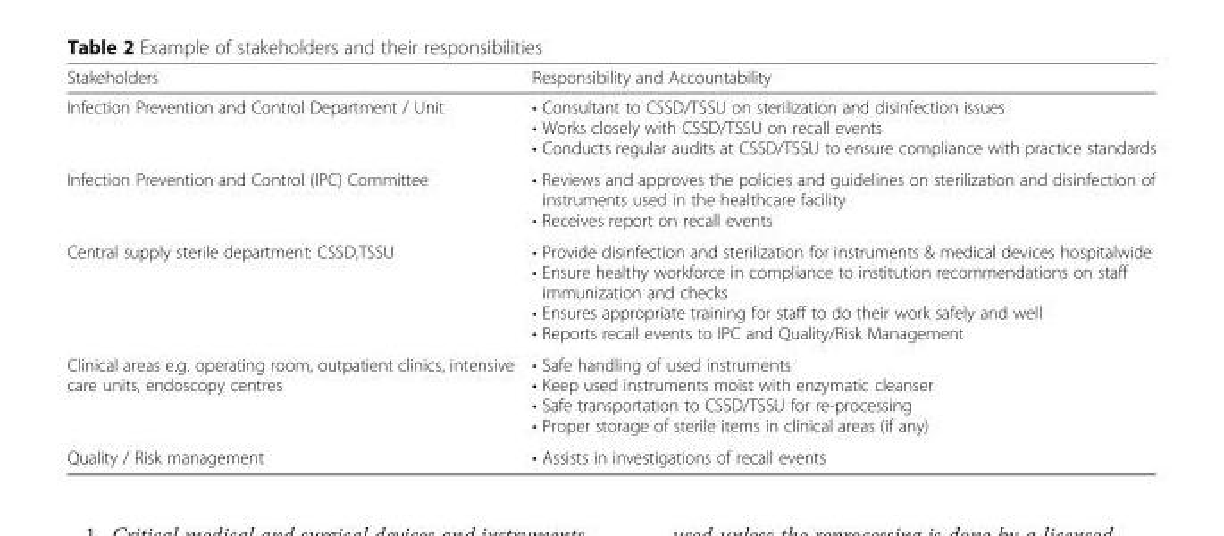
<table><thead><tr><td>Stakeholders</td><td>Responsibility and Accountability</td></tr></thead><tbody><tr><td>Infection Prevention and Control Department / Unit</td><td>• Consultant to CSSD/TSSU on sterilization and disinfection issues • Works closely with CSSD/TSSU on recall events • Conducts regular audits at CSSD/TSSU to ensure compliance with practice standards</td></tr><tr><td>Infection Prevention and Control (IPC) Committee</td><td>• Reviews and approves the policies and guidelines on sterilization and disinfection of instruments used in the healthcare facility • Receives report on recall events</td></tr><tr><td>Central supply sterile department: CSSD,TSSU</td><td>• Provide disinfection and sterilization for instruments &amp; medical devices hospitalwide • Ensure healthy workforce in compliance to institution recommendations on staff immunization and checks • Ensures appropriate training for staff to do their work safely and well • Reports recall events to IPC and Quality/Risk Management</td></tr><tr><td>Clinical areas e.g. operating room, outpatient clinics, intensive care units, endoscopy centres</td><td>• Safe handling of used instruments • Keep used instruments moist with enzymatic cleanser • Safe transportation to CSSD/TSSU for re-processing • Proper storage of sterile items in clinical areas (if any)</td></tr><tr><td>Quality / Risk management</td><td>• Assists in investigations of recall events</td></tr></tbody></table>